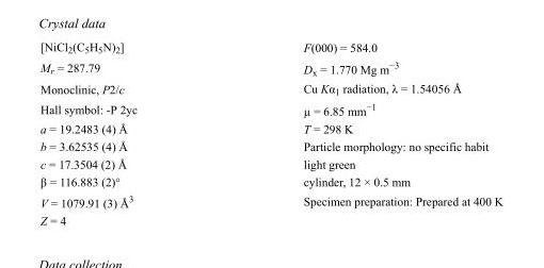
<table><tbody><tr><td>[NiCl<sub>2</sub>(C<sub>5</sub>H<sub>5</sub>N)<sub>2</sub>]</td><td>F(000) = 584.0</td></tr><tr><td>M<sub>r</sub> = 287.79</td><td>D<sub>x</sub> = 1.770 Mg m<sup>−3</sup></td></tr><tr><td>Monoclinic, P2/c</td><td>Cu Kα<sub>1</sub> radiation, λ = 1.54056 Å</td></tr><tr><td>Hall symbol: -P 2yc</td><td>µ = 6.85 mm<sup>−1</sup></td></tr><tr><td>a = 19.2483 (4) Å</td><td>T = 298 K</td></tr><tr><td>b = 3.62535 (4) Å</td><td>Particle morphology: no specific habit</td></tr><tr><td>c = 17.3504 (2) Å</td><td>light green</td></tr><tr><td>β = 116.883 (2)°</td><td>cylinder, 12 × 0.5 mm</td></tr><tr><td>V = 1079.91 (3) Å<sup>3</sup></td><td>Specimen preparation: Prepared at 400 K</td></tr><tr><td>Z = 4</td><td></td></tr></tbody></table>